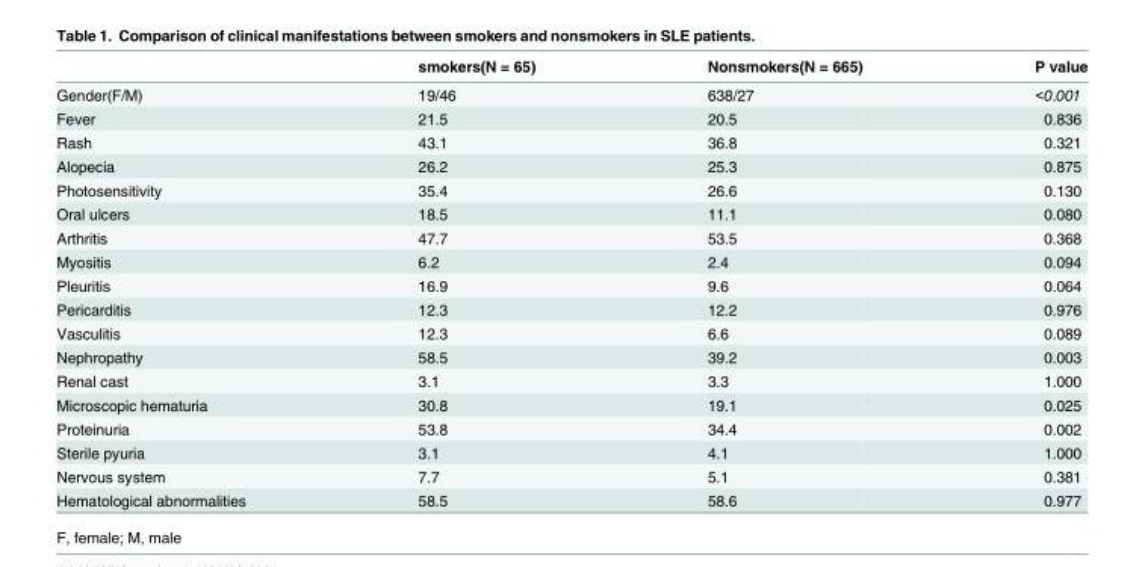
<table><thead><tr><td></td><td>smokers(N = 65)</td><td>Nonsmokers(N = 665)</td><td>P value</td></tr></thead><tbody><tr><td>Gender(F/M)</td><td>19/46</td><td>638/27</td><td>&lt;0.001</td></tr><tr><td>Fever</td><td>21.5</td><td>20.5</td><td>0.836</td></tr><tr><td>Rash</td><td>43.1</td><td>36.8</td><td>0.321</td></tr><tr><td>Alopecia</td><td>26.2</td><td>25.3</td><td>0.875</td></tr><tr><td>Photosensitivity</td><td>35.4</td><td>26.6</td><td>0.130</td></tr><tr><td>Oral ulcers</td><td>18.5</td><td>11.1</td><td>0.080</td></tr><tr><td>Arthritis</td><td>47.7</td><td>53.5</td><td>0.368</td></tr><tr><td>Myositis</td><td>6.2</td><td>2.4</td><td>0.094</td></tr><tr><td>Pleuritis</td><td>16.9</td><td>9.6</td><td>0.064</td></tr><tr><td>Pericarditis</td><td>12.3</td><td>12.2</td><td>0.976</td></tr><tr><td>Vasculitis</td><td>12.3</td><td>6.6</td><td>0.089</td></tr><tr><td>Nephropathy</td><td>58.5</td><td>39.2</td><td>0.003</td></tr><tr><td>Renal cast</td><td>3.1</td><td>3.3</td><td>1.000</td></tr><tr><td>Microscopic hematuria</td><td>30.8</td><td>19.1</td><td>0.025</td></tr><tr><td>Proteinuria</td><td>53.8</td><td>34.4</td><td>0.002</td></tr><tr><td>Sterile pyuria</td><td>3.1</td><td>4.1</td><td>1.000</td></tr><tr><td>Nervous system</td><td>7.7</td><td>5.1</td><td>0.381</td></tr><tr><td>Hematological abnormalities</td><td>58.5</td><td>58.6</td><td>0.977</td></tr></tbody></table>